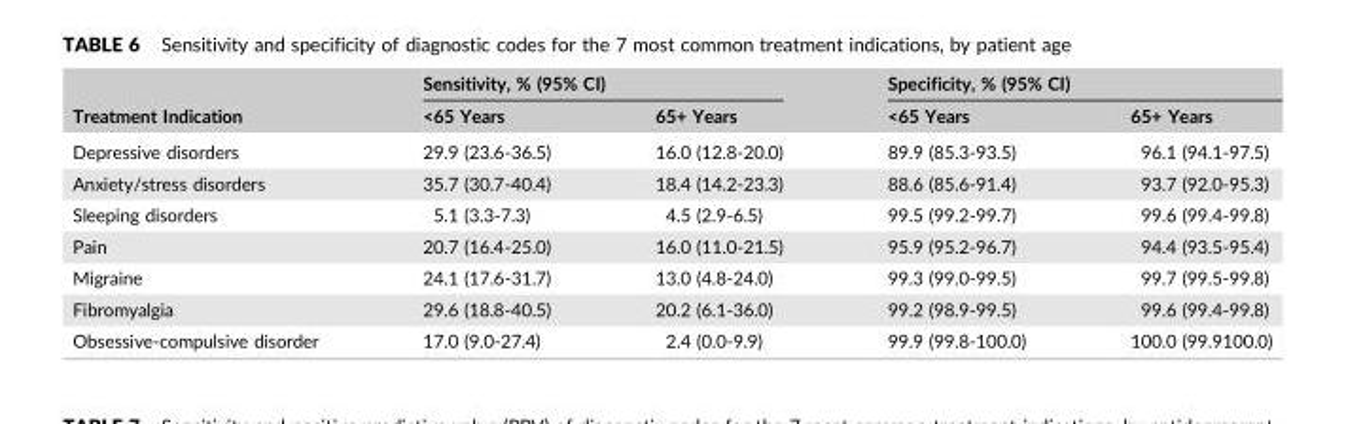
<table><thead><tr><td rowspan="2">Treatment Indication</td><td colspan="2">Sensitivity, % (95% CI)</td><td colspan="2">Specificity, % (95% CI)</td></tr><tr><td>&lt;65 Years</td><td>65+ Years</td><td>&lt;65 Years</td><td>65+ Years</td></tr></thead><tbody><tr><td>Depressive disorders</td><td>29.9 (23.6‐36.5)</td><td>16.0 (12.8‐20.0)</td><td>89.9 (85.3‐93.5)</td><td>96.1 (94.1‐97.5)</td></tr><tr><td>Anxiety/stress disorders</td><td>35.7 (30.7‐40.4)</td><td>18.4 (14.2‐23.3)</td><td>88.6 (85.6‐91.4)</td><td>93.7 (92.0‐95.3)</td></tr><tr><td>Sleeping disorders</td><td>5.1 (3.3‐7.3)</td><td>4.5 (2.9‐6.5)</td><td>99.5 (99.2‐99.7)</td><td>99.6 (99.4‐99.8)</td></tr><tr><td>Pain</td><td>20.7 (16.4‐25.0)</td><td>16.0 (11.0‐21.5)</td><td>95.9 (95.2‐96.7)</td><td>94.4 (93.5‐95.4)</td></tr><tr><td>Migraine</td><td>24.1 (17.6‐31.7)</td><td>13.0 (4.8‐24.0)</td><td>99.3 (99.0‐99.5)</td><td>99.7 (99.5‐99.8)</td></tr><tr><td>Fibromyalgia</td><td>29.6 (18.8‐40.5)</td><td>20.2 (6.1‐36.0)</td><td>99.2 (98.9‐99.5)</td><td>99.6 (99.4‐99.8)</td></tr><tr><td>Obsessive‐compulsive disorder</td><td>17.0 (9.0‐27.4)</td><td>2.4 (0.0‐9.9)</td><td>99.9 (99.8‐100.0)</td><td>100.0 (99.9100.0)</td></tr></tbody></table>